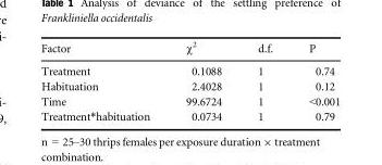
<table><thead><tr><td>Factor</td><td>χ<sup>2</sup></td><td>d.f.</td><td>P</td></tr></thead><tbody><tr><td>Treatment</td><td>0.1088</td><td>1</td><td>0.74</td></tr><tr><td>Habituation</td><td>2.4028</td><td>1</td><td>0.12</td></tr><tr><td>Time</td><td>99.6724</td><td>1</td><td>&lt;0.001</td></tr><tr><td>Treatment*habituation</td><td>0.0734</td><td>1</td><td>0.79</td></tr></tbody></table>